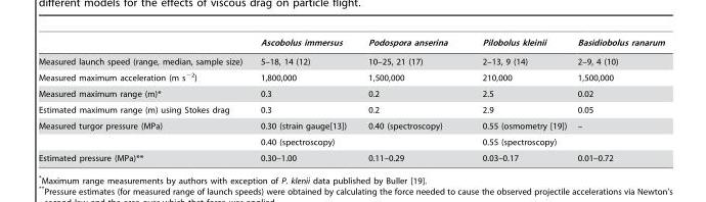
<table><thead><tr><td></td><td>Ascobolus immersus</td><td>Podospora anserina</td><td>Pilobolus kleinii</td><td>Basidiobolus ranarum</td></tr></thead><tbody><tr><td>Measured launch speed (range, median, sample size)</td><td>5–18, 14 (12)</td><td>10–25, 21 (17)</td><td>2–13, 9 (14)</td><td>2–9, 4 (10)</td></tr><tr><td>Measured maximum acceleration (m s<sup>−2</sup>)</td><td>1,800,000</td><td>1,500,000</td><td>210,000</td><td>1,500,000</td></tr><tr><td>Measured maximum range (m)*</td><td>0.3</td><td>0.2</td><td>2.5</td><td>0.02</td></tr><tr><td>Estimated maximum range (m) using Stokes drag</td><td>0.3</td><td>0.2</td><td>2.9</td><td>0.05</td></tr><tr><td rowspan="2">Measured turgor pressure (MPa)</td><td>0.30 (strain gauge[13])</td><td>0.40 (spectroscopy)</td><td>0.55 (osmometry [19])</td><td>–</td></tr><tr><td>0.40 (spectroscopy)</td><td></td><td>0.55 (spectroscopy)</td><td></td></tr><tr><td>Estimated pressure (MPa)**</td><td>0.30–1.00</td><td>0.11–0.29</td><td>0.03–0.17</td><td>0.01–0.72</td></tr></tbody></table>